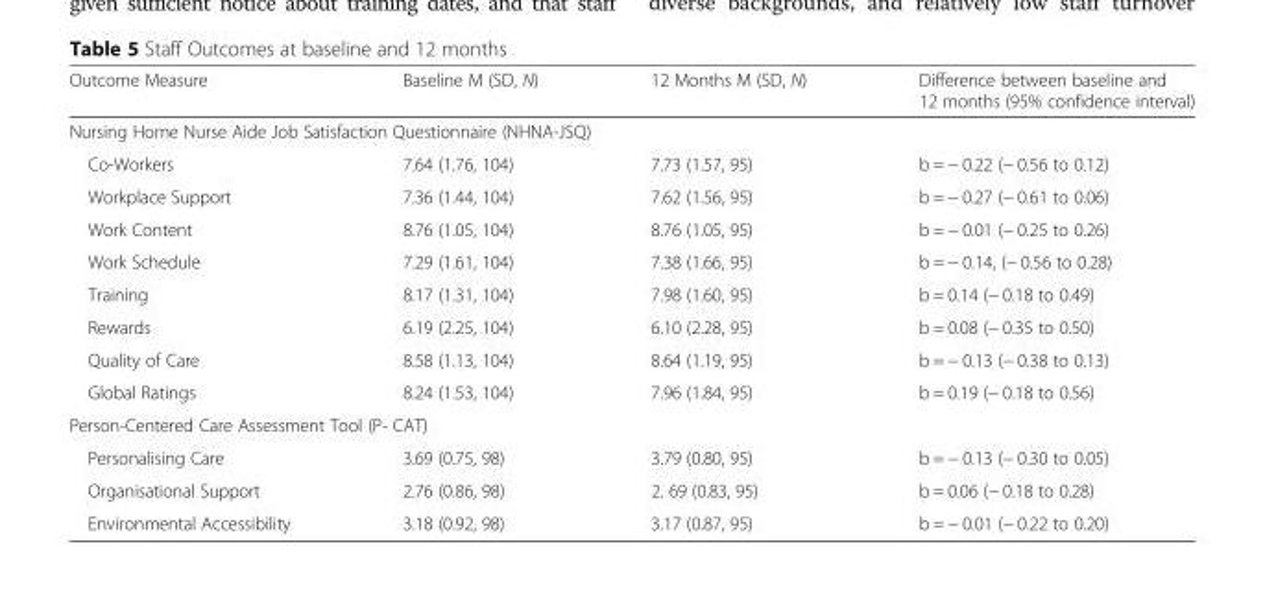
<table><thead><tr><td>Outcome Measure</td><td>Baseline M (SD, N)</td><td>12 Months M (SD, N)</td><td>Difference between baseline and 12 months (95% confidence interval)</td></tr></thead><tbody><tr><td colspan="4">Nursing Home Nurse Aide Job Satisfaction Questionnaire (NHNA-JSQ)</td></tr><tr><td>Co-Workers</td><td>7.64 (1.76, 104)</td><td>7.73 (1.57, 95)</td><td>b = − 0.22 (− 0.56 to 0.12)</td></tr><tr><td>Workplace Support</td><td>7.36 (1.44, 104)</td><td>7.62 (1.56, 95)</td><td>b = − 0.27 (− 0.61 to 0.06)</td></tr><tr><td>Work Content</td><td>8.76 (1.05, 104)</td><td>8.76 (1.05, 95)</td><td>b = − 0.01 (− 0.25 to 0.26)</td></tr><tr><td>Work Schedule</td><td>7.29 (1.61, 104)</td><td>7.38 (1.66, 95)</td><td>b = − 0.14, (− 0.56 to 0.28)</td></tr><tr><td>Training</td><td>8.17 (1.31, 104)</td><td>7.98 (1.60, 95)</td><td>b = 0.14 (− 0.18 to 0.49)</td></tr><tr><td>Rewards</td><td>6.19 (2.25, 104)</td><td>6.10 (2.28, 95)</td><td>b = 0.08 (− 0.35 to 0.50)</td></tr><tr><td>Quality of Care</td><td>8.58 (1.13, 104)</td><td>8.64 (1.19, 95)</td><td>b = − 0.13 (− 0.38 to 0.13)</td></tr><tr><td>Global Ratings</td><td>8.24 (1.53, 104)</td><td>7.96 (1.84, 95)</td><td>b = 0.19 (− 0.18 to 0.56)</td></tr><tr><td colspan="4">Person-Centered Care Assessment Tool (P- CAT)</td></tr><tr><td>Personalising Care</td><td>3.69 (0.75, 98)</td><td>3.79 (0.80, 95)</td><td>b = − 0.13 (− 0.30 to 0.05)</td></tr><tr><td>Organisational Support</td><td>2.76 (0.86, 98)</td><td>2. 69 (0.83, 95)</td><td>b = 0.06 (− 0.18 to 0.28)</td></tr><tr><td>Environmental Accessibility</td><td>3.18 (0.92, 98)</td><td>3.17 (0.87, 95)</td><td>b = − 0.01 (− 0.22 to 0.20)</td></tr></tbody></table>